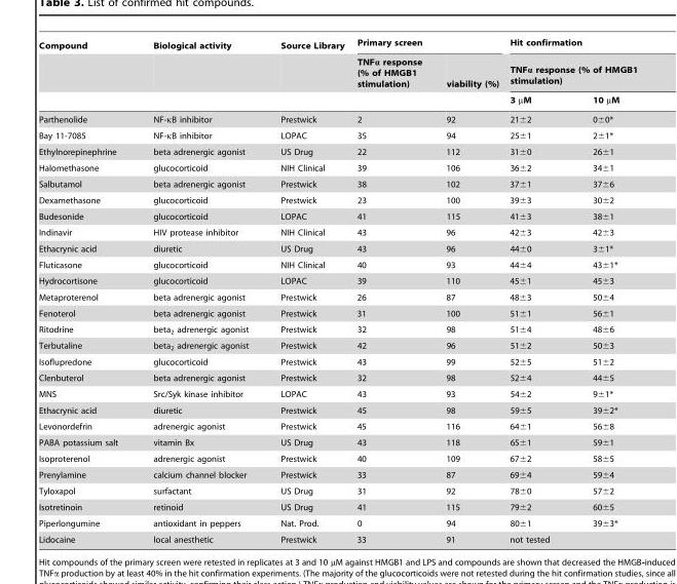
<table><thead><tr><td rowspan="3">Compound</td><td rowspan="3">Biological activity</td><td rowspan="3">Source Library</td><td colspan="2">Primary screen</td><td rowspan="2" colspan="2">Hit confirmation TNFα response (% of HMGB1 stimulation)</td></tr><tr><td rowspan="2">TNFα response (% of HMGB1 stimulation)</td><td rowspan="2">viability (%)</td></tr><tr><td>3 µM</td><td>10 µM</td></tr></thead><tbody><tr><td>Parthenolide</td><td>NF-κB inhibitor</td><td>Prestwick</td><td>2</td><td>92</td><td>21±2</td><td>0±0*</td></tr><tr><td>Bay 11-7085</td><td>NF-κB inhibitor</td><td>LOPAC</td><td>35</td><td>94</td><td>25±1</td><td>2±1*</td></tr><tr><td>Ethylnorepinephrine</td><td>beta adrenergic agonist</td><td>US Drug</td><td>22</td><td>112</td><td>31±0</td><td>26±1</td></tr><tr><td>Halomethasone</td><td>glucocorticoid</td><td>NIH Clinical</td><td>39</td><td>106</td><td>36±2</td><td>34±1</td></tr><tr><td>Salbutamol</td><td>beta adrenergic agonist</td><td>Prestwick</td><td>38</td><td>102</td><td>37±1</td><td>37±6</td></tr><tr><td>Dexamethasone</td><td>glucocorticoid</td><td>Prestwick</td><td>23</td><td>100</td><td>39±3</td><td>30±2</td></tr><tr><td>Budesonide</td><td>glucocorticoid</td><td>LOPAC</td><td>41</td><td>115</td><td>41±3</td><td>38±1</td></tr><tr><td>Indinavir</td><td>HIV protease inhibitor</td><td>NIH Clinical</td><td>43</td><td>96</td><td>42±3</td><td>42±3</td></tr><tr><td>Ethacrynic acid</td><td>diuretic</td><td>US Drug</td><td>43</td><td>96</td><td>44±0</td><td>3±1*</td></tr><tr><td>Fluticasone</td><td>glucocorticoid</td><td>NIH Clinical</td><td>40</td><td>93</td><td>44±4</td><td>43±1*</td></tr><tr><td>Hydrocortisone</td><td>glucocorticoid</td><td>LOPAC</td><td>39</td><td>110</td><td>45±1</td><td>45±3</td></tr><tr><td>Metaproterenol</td><td>beta adrenergic agonist</td><td>Prestwick</td><td>26</td><td>87</td><td>48±3</td><td>50±4</td></tr><tr><td>Fenoterol</td><td>beta adrenergic agonist</td><td>Prestwick</td><td>31</td><td>100</td><td>51±1</td><td>56±1</td></tr><tr><td>Ritodrine</td><td>beta<sub>2</sub> adrenergic agonist</td><td>Prestwick</td><td>32</td><td>98</td><td>51±4</td><td>48±6</td></tr><tr><td>Terbutaline</td><td>beta<sub>2</sub> adrenergic agonist</td><td>Prestwick</td><td>42</td><td>96</td><td>51±2</td><td>50±3</td></tr><tr><td>Isoflupredone</td><td>glucocorticoid</td><td>Prestwick</td><td>43</td><td>99</td><td>52±5</td><td>51±2</td></tr><tr><td>Clenbuterol</td><td>beta adrenergic agonist</td><td>Prestwick</td><td>32</td><td>98</td><td>52±4</td><td>44±5</td></tr><tr><td>MNS</td><td>Src/Syk kinase inhibitor</td><td>LOPAC</td><td>43</td><td>93</td><td>54±2</td><td>9±1*</td></tr><tr><td>Ethacrynic acid</td><td>diuretic</td><td>Prestwick</td><td>45</td><td>98</td><td>59±5</td><td>39±2*</td></tr><tr><td>Levonordefrin</td><td>adrenergic agonist</td><td>Prestwick</td><td>45</td><td>116</td><td>64±1</td><td>56±8</td></tr><tr><td>PABA potassium salt</td><td>vitamin Bx</td><td>US Drug</td><td>43</td><td>118</td><td>65±1</td><td>59±1</td></tr><tr><td>Isoproterenol</td><td>adrenergic agonist</td><td>Prestwick</td><td>40</td><td>109</td><td>67±2</td><td>58±5</td></tr><tr><td>Prenylamine</td><td>calcium channel blocker</td><td>Prestwick</td><td>33</td><td>87</td><td>69±4</td><td>59±4</td></tr><tr><td>Tyloxapol</td><td>surfactant</td><td>US Drug</td><td>31</td><td>92</td><td>78±0</td><td>57±2</td></tr><tr><td>Isotretinoin</td><td>retinoid</td><td>US Drug</td><td>41</td><td>115</td><td>79±2</td><td>60±5</td></tr><tr><td>Piperlongumine</td><td>antioxidant in peppers</td><td>Nat. Prod.</td><td>0</td><td>94</td><td>80±1</td><td>39±3*</td></tr><tr><td>Lidocaine</td><td>local anesthetic</td><td>Prestwick</td><td>33</td><td>91</td><td colspan="2">not tested</td></tr></tbody></table>